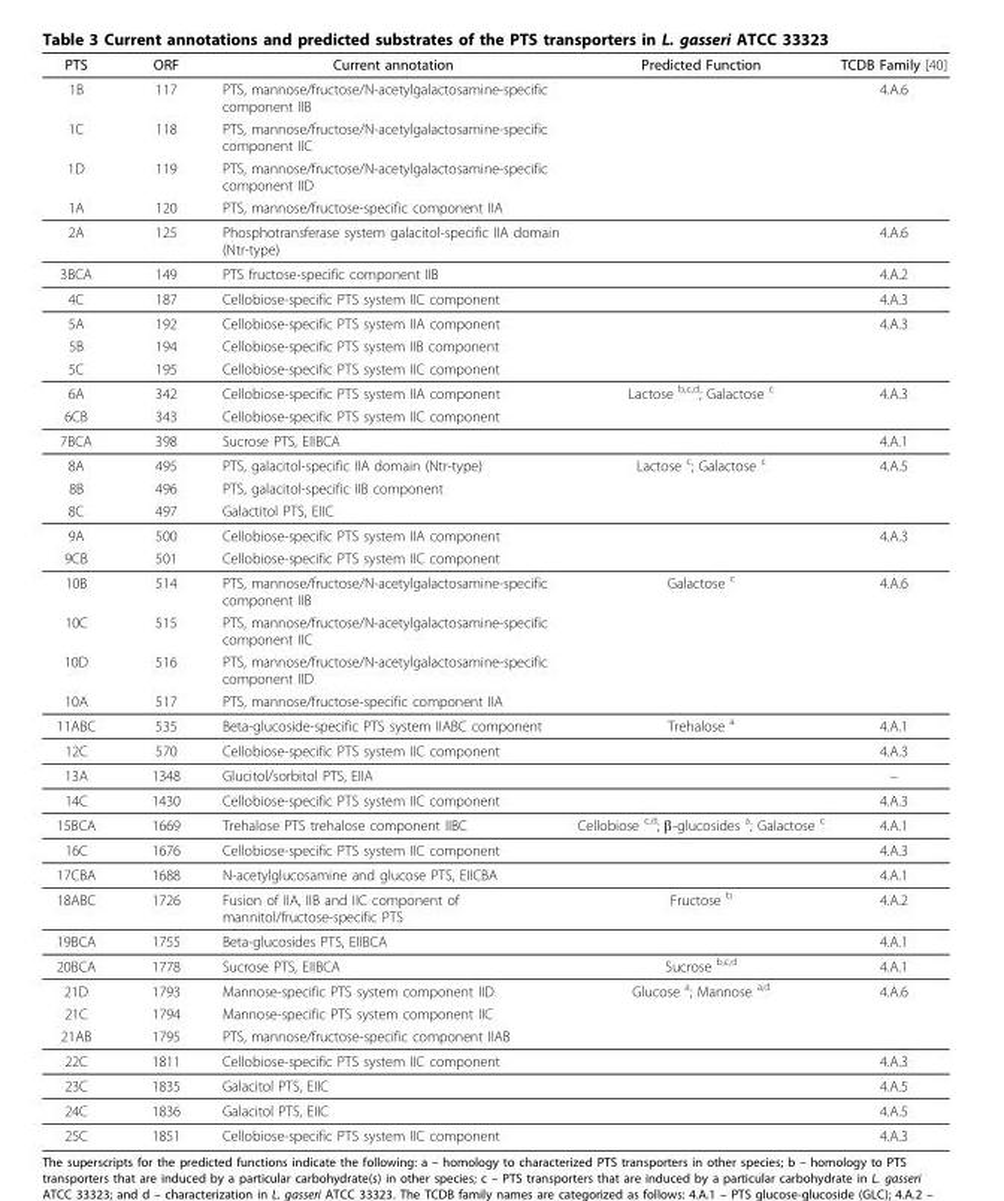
<table><thead><tr><td>PTS</td><td>ORF</td><td>Current annotation</td><td>Predicted Function</td><td>TCDB Family [40]</td></tr></thead><tbody><tr><td>1B</td><td>117</td><td>PTS, mannose/fructose/N-acetylgalactosamine-specific component IIB</td><td></td><td>4.A.6</td></tr><tr><td>1C</td><td>118</td><td>PTS, mannose/fructose/N-acetylgalactosamine-specific component IIC</td><td></td><td></td></tr><tr><td>1D</td><td>119</td><td>PTS, mannose/fructose/N-acetylgalactosamine-specific component IID</td><td></td><td></td></tr><tr><td>1A</td><td>120</td><td>PTS, mannose/fructose-specific component IIA</td><td></td><td></td></tr><tr><td>2A</td><td>125</td><td>Phosphotransferase system galacitol-specific IIA domain (Ntr-type)</td><td></td><td>4.A.6</td></tr><tr><td>3BCA</td><td>149</td><td>PTS fructose-specific component IIB</td><td></td><td>4.A.2</td></tr><tr><td>4C</td><td>187</td><td>Cellobiose-specific PTS system IIC component</td><td></td><td>4.A.3</td></tr><tr><td>5A</td><td>192</td><td>Cellobiose-specific PTS system IIA component</td><td></td><td>4.A.3</td></tr><tr><td>5B</td><td>194</td><td>Cellobiose-specific PTS system IIB component</td><td></td><td></td></tr><tr><td>5C</td><td>195</td><td>Cellobiose-specific PTS system IIC component</td><td></td><td></td></tr><tr><td>6A</td><td>342</td><td>Cellobiose-specific PTS system IIA component</td><td>Lactose <sup>b,c,d</sup>; Galactose <sup>c</sup></td><td>4.A.3</td></tr><tr><td>6CB</td><td>343</td><td>Cellobiose-specific PTS system IIC component</td><td></td><td></td></tr><tr><td>7BCA</td><td>398</td><td>Sucrose PTS, EIIBCA</td><td></td><td>4.A.1</td></tr><tr><td>8A</td><td>495</td><td>PTS, galacitol-specific IIA domain (Ntr-type)</td><td>Lactose <sup>c</sup>; Galactose <sup>c</sup></td><td>4.A.5</td></tr><tr><td>8B</td><td>496</td><td>PTS, galacitol-specific IIB component</td><td></td><td></td></tr><tr><td>8C</td><td>497</td><td>Galactitol PTS, EIIC</td><td></td><td></td></tr><tr><td>9A</td><td>500</td><td>Cellobiose-specific PTS system IIA component</td><td></td><td>4.A.3</td></tr><tr><td>9CB</td><td>501</td><td>Cellobiose-specific PTS system IIC component</td><td></td><td></td></tr><tr><td>10B</td><td>514</td><td>PTS, mannose/fructose/N-acetylgalactosamine-specific component IIB</td><td>Galactose <sup>c</sup></td><td>4.A.6</td></tr><tr><td>10C</td><td>515</td><td>PTS, mannose/fructose/N-acetylgalactosamine-specific component IIC</td><td></td><td></td></tr><tr><td>10D</td><td>516</td><td>PTS, mannose/fructose/N-acetylgalactosamine-specific component IID</td><td></td><td></td></tr><tr><td>10A</td><td>517</td><td>PTS, mannose/fructose-specific component IIA</td><td></td><td></td></tr><tr><td>11ABC</td><td>535</td><td>Beta-glucoside-specific PTS system IIABC component</td><td>Trehalose <sup>a</sup></td><td>4.A.1</td></tr><tr><td>12C</td><td>570</td><td>Cellobiose-specific PTS system IIC component</td><td></td><td>4.A.3</td></tr><tr><td>13A</td><td>1348</td><td>Glucitol/sorbitol PTS, EIIA</td><td></td><td>–</td></tr><tr><td>14C</td><td>1430</td><td>Cellobiose-specific PTS system IIC component</td><td></td><td>4.A.3</td></tr><tr><td>15BCA</td><td>1669</td><td>Trehalose PTS trehalose component IIBC</td><td>Cellobiose c,d; β-glucosides a; Galactose c</td><td>4.A.1</td></tr><tr><td>16C</td><td>1676</td><td>Cellobiose-specific PTS system IIC component</td><td></td><td>4.A.3</td></tr><tr><td>17CBA</td><td>1688</td><td>N-acetylglucosamine and glucose PTS, EIICBA</td><td></td><td>4.A.1</td></tr><tr><td>18ABC</td><td>1726</td><td>Fusion of IIA, IIB and IIC component of mannitol/fructose-specific PTS</td><td>Fructose b</td><td>4.A.2</td></tr><tr><td>19BCA</td><td>1755</td><td>Beta-glucosides PTS, EIIBCA</td><td></td><td>4.A.1</td></tr><tr><td>20BCA</td><td>1778</td><td>Sucrose PTS, EIIBCA</td><td>Sucrose b,c,d</td><td>4.A.1</td></tr><tr><td>21D</td><td>1793</td><td>Mannose-specific PTS system component IID</td><td>Glucose a; Mannose a,d</td><td>4.A.6</td></tr><tr><td>21C</td><td>1794</td><td>Mannose-specific PTS system component IIC</td><td></td><td></td></tr><tr><td>21AB</td><td>1795</td><td>PTS, mannose/fructose-specific component IIAB</td><td></td><td></td></tr><tr><td>22C</td><td>1811</td><td>Cellobiose-specific PTS system IIC component</td><td></td><td>4.A.3</td></tr><tr><td>23C</td><td>1835</td><td>Galacitol PTS, EIIC</td><td></td><td>4.A.5</td></tr><tr><td>24C</td><td>1836</td><td>Galacitol PTS, EIIC</td><td></td><td>4.A.5</td></tr><tr><td>25C</td><td>1851</td><td>Cellobiose-specific PTS system IIC component</td><td></td><td>4.A.3</td></tr></tbody></table>